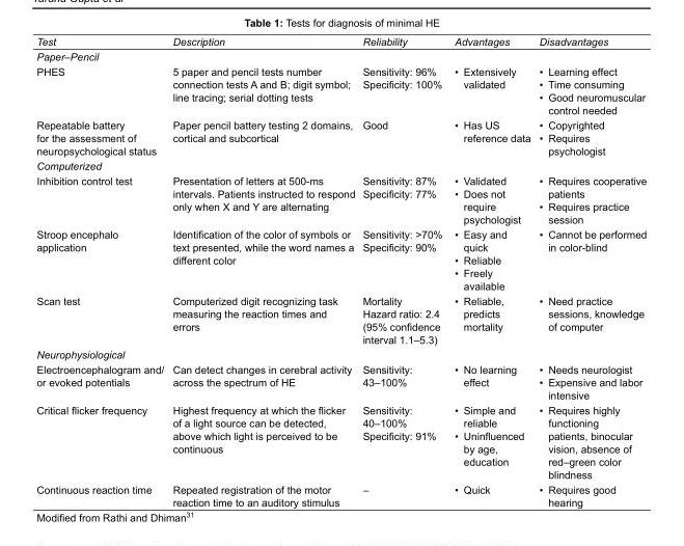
<table><tbody><tr><td>Test</td><td>Description</td><td>Reliability</td><td>Advantages</td><td>Disadvantages</td></tr><tr><td>Paper–Pencil PHES</td><td>5 paper and pencil tests number connection tests A and B; digit symbol; line tracing; serial dotting tests</td><td>Sensitivity: 96% Specificity: 100%</td><td>• Extensively validated</td><td>• Learning effect • Time consuming • Good neuromuscular control needed</td></tr><tr><td>Repeatable battery for the assessment of neuropsychological status</td><td>Paper pencil battery testing 2 domains, cortical and subcortical</td><td>Good</td><td>• Has US reference data</td><td>• Copyrighted • Requires psychologist</td></tr><tr><td>Computerized Inhibition control test</td><td>Presentation of letters at 500-ms intervals. Patients instructed to respond only when X and Y are alternating</td><td>Sensitivity: 87% Specificity: 77%</td><td>• Validated • Does not require psychologist</td><td>• Requires cooperative patients • Requires practice session</td></tr><tr><td>Stroop encephalo application</td><td>Identification of the color of symbols or text presented, while the word names a different color</td><td>Sensitivity: &gt;70% Specificity: 90%</td><td>• Easy and quick • Reliable • Freely available</td><td>• Cannot be performed in color-blind</td></tr><tr><td>Scan test</td><td>Computerized digit recognizing task measuring the reaction times and errors</td><td>Mortality Hazard ratio: 2.4 (95% confidence interval 1.1–5.3)</td><td>• Reliable, predicts mortality</td><td>• Need practice sessions, knowledge of computer</td></tr><tr><td>Neurophysiological Electroencephalogram and/ or evoked potentials</td><td>Can detect changes in cerebral activity across the spectrum of HE</td><td>Sensitivity: 43–100%</td><td>• No learning effect</td><td>• Needs neurologist • Expensive and labor intensive</td></tr><tr><td>Critical flicker frequency</td><td>Highest frequency at which the flicker of a light source can be detected, above which light is perceived to be continuous</td><td>Sensitivity: 40–100% Specificity: 91%</td><td>• Simple and reliable • Uninfluenced by age, education</td><td>• Requires highly functioning patients, binocular vision, absence of red–green color blindness</td></tr><tr><td>Continuous reaction time</td><td>Repeated registration of the motor reaction time to an auditory stimulus</td><td>–</td><td>• Quick</td><td>• Requires good hearing</td></tr></tbody></table>